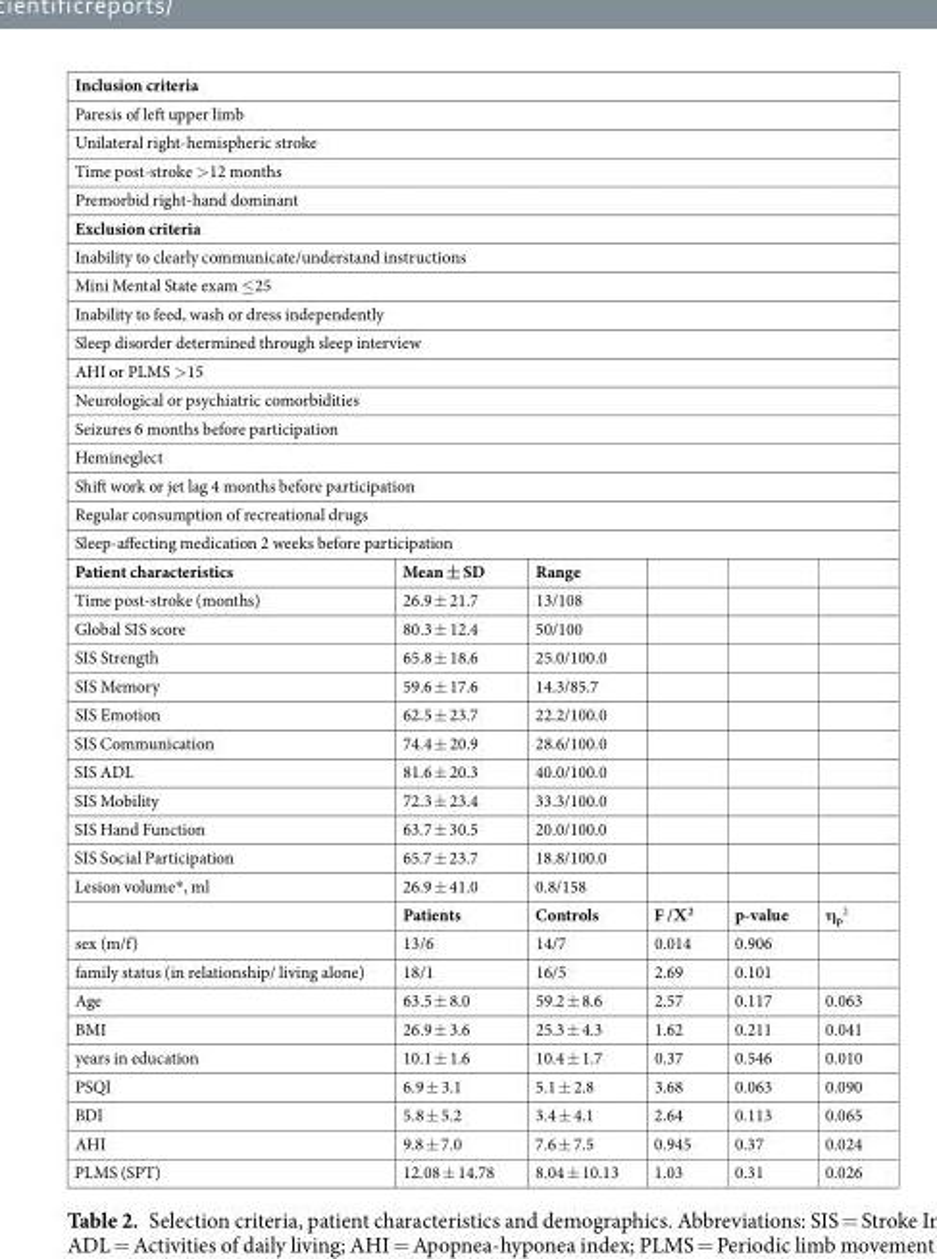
<table><tbody><tr><td colspan="6">Inclusion criteria</td></tr><tr><td colspan="6">Paresis of left upper limb</td></tr><tr><td colspan="6">Unilateral right-hemispheric stroke</td></tr><tr><td colspan="6">Time post-stroke &gt;12 months</td></tr><tr><td colspan="6">Premorbid right-hand dominant</td></tr><tr><td colspan="6">Exclusion criteria</td></tr><tr><td colspan="6">Inability to clearly communicate/understand instructions</td></tr><tr><td colspan="6">Mini Mental State exam ≤25</td></tr><tr><td colspan="6">Inability to feed, wash or dress independently</td></tr><tr><td colspan="6">Sleep disorder determined through sleep interview</td></tr><tr><td colspan="6">AHI or PLMS &gt;15</td></tr><tr><td colspan="6">Neurological or psychiatric comorbidities</td></tr><tr><td colspan="6">Seizures 6 months before participation</td></tr><tr><td colspan="6">Hemineglect</td></tr><tr><td colspan="6">Shift work or jet lag 4 months before participation</td></tr><tr><td colspan="6">Regular consumption of recreational drugs</td></tr><tr><td colspan="6">Sleep-affecting medication 2 weeks before participation</td></tr><tr><td>Patient characteristics</td><td>Mean ± SD</td><td>Range</td><td></td><td></td><td></td></tr><tr><td>Time post-stroke (months)</td><td>26.9 ± 21.7</td><td>13/108</td><td></td><td></td><td></td></tr><tr><td>Global SIS score</td><td>80.3 ± 12.4</td><td>50/100</td><td></td><td></td><td></td></tr><tr><td>SIS Strength</td><td>65.8 ± 18.6</td><td>25.0/100.0</td><td></td><td></td><td></td></tr><tr><td>SIS Memory</td><td>59.6 ± 17.6</td><td>14.3/85.7</td><td></td><td></td><td></td></tr><tr><td>SIS Emotion</td><td>62.5 ± 23.7</td><td>22.2/100.0</td><td></td><td></td><td></td></tr><tr><td>SIS Communication</td><td>74.4 ± 20.9</td><td>28.6/100.0</td><td></td><td></td><td></td></tr><tr><td>SIS ADL</td><td>81.6 ± 20.3</td><td>40.0/100.0</td><td></td><td></td><td></td></tr><tr><td>SIS Mobility</td><td>72.3 ± 23.4</td><td>33.3/100.0</td><td></td><td></td><td></td></tr><tr><td>SIS Hand Function</td><td>63.7 ± 30.5</td><td>20.0/100.0</td><td></td><td></td><td></td></tr><tr><td>SIS Social Participation</td><td>65.7 ± 23.7</td><td>18.8/100.0</td><td></td><td></td><td></td></tr><tr><td rowspan="2">Lesion volume*, ml</td><td>26.9 ± 41.0</td><td>0.8/158</td><td></td><td></td><td></td></tr><tr><td>Patients</td><td>Controls</td><td>F /Χ<sup>2</sup></td><td>p-value</td><td>η<sub>p</sub> <sup>2</sup></td></tr><tr><td>sex (m/f)</td><td>13/6</td><td>14/7</td><td>0.014</td><td>0.906</td><td></td></tr><tr><td>family status (in relationship/ living alone)</td><td>18/1</td><td>16/5</td><td>2.69</td><td>0.101</td><td></td></tr><tr><td>Age</td><td>63.5 ± 8.0</td><td>59.2 ± 8.6</td><td>2.57</td><td>0.117</td><td>0.063</td></tr><tr><td>BMI</td><td>26.9 ± 3.6</td><td>25.3 ± 4.3</td><td>1.62</td><td>0.211</td><td>0.041</td></tr><tr><td>years in education</td><td>10.1 ± 1.6</td><td>10.4 ± 1.7</td><td>0.37</td><td>0.546</td><td>0.010</td></tr><tr><td>PSQI</td><td>6.9 ± 3.1</td><td>5.1 ± 2.8</td><td>3.68</td><td>0.063</td><td>0.090</td></tr><tr><td>BDI</td><td>5.8 ± 5.2</td><td>3.4 ± 4.1</td><td>2.64</td><td>0.113</td><td>0.065</td></tr><tr><td>AHI</td><td>9.8 ± 7.0</td><td>7.6 ± 7.5</td><td>0.945</td><td>0.37</td><td>0.024</td></tr><tr><td>PLMS (SPT)</td><td>12.08 ± 14.78</td><td>8.04 ± 10.13</td><td>1.03</td><td>0.31</td><td>0.026</td></tr></tbody></table>